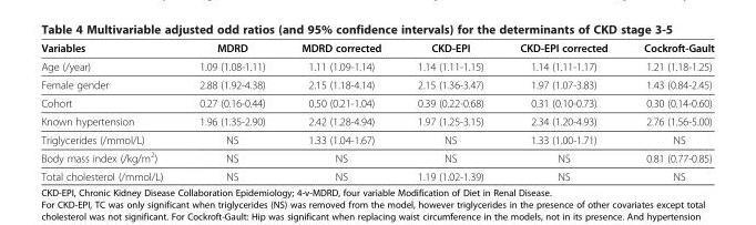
<table><thead><tr><td>Variables</td><td>MDRD</td><td>MDRD corrected</td><td>CKD-EPI</td><td>CKD-EPI corrected</td><td>Cockroft-Gault</td></tr></thead><tbody><tr><td>Age (/year)</td><td>1.09 (1.08-1.11)</td><td>1.11 (1.09-1.14)</td><td>1.14 (1.11-1.15)</td><td>1.14 (1.11-1.17)</td><td>1.21 (1.18-1.25)</td></tr><tr><td>Female gender</td><td>2.88 (1.92-4.38)</td><td>2.15 (1.18-4.14)</td><td>2.15 (1.36-3.47)</td><td>1.97 (1.07-3.83)</td><td>1.43 (0.84-2.45)</td></tr><tr><td>Cohort</td><td>0.27 (0.16-0.44)</td><td>0.50 (0.21-1.04)</td><td>0.39 (0.22-0.68)</td><td>0.31 (0.10-0.73)</td><td>0.30 (0.14-0.60)</td></tr><tr><td>Known hypertension</td><td>1.96 (1.35-2.90)</td><td>2.42 (1.28-4.94)</td><td>1.97 (1.25-3.15)</td><td>2.34 (1.20-4.93)</td><td>2.76 (1.56-5.00)</td></tr><tr><td>Triglycerides (/mmol/L)</td><td>NS</td><td>1.33 (1.04-1.67)</td><td>NS</td><td>1.33 (1.00-1.71)</td><td>NS</td></tr><tr><td>Body mass index (/kg/m<sup>2</sup>)</td><td>NS</td><td>NS</td><td>NS</td><td>NS</td><td>0.81 (0.77-0.85)</td></tr><tr><td>Total cholesterol (/mmol/L)</td><td>NS</td><td>NS</td><td>1.19 (1.02-1.39)</td><td>NS</td><td>NS</td></tr></tbody></table>